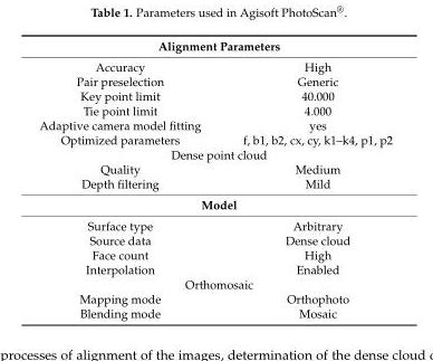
<table><tbody><tr><td colspan="2">Alignment Parameters</td></tr><tr><td>Accuracy</td><td>High</td></tr><tr><td>Pair preselection</td><td>Generic</td></tr><tr><td>Key point limit</td><td>40.000</td></tr><tr><td>Tie point limit</td><td>4.000</td></tr><tr><td>Adaptive camera model fitting</td><td>yes</td></tr><tr><td>Optimized parameters</td><td>f, b1, b2, cx, cy, k1–k4, p1, p2</td></tr><tr><td colspan="2">Dense point cloud</td></tr><tr><td>Quality</td><td>Medium</td></tr><tr><td>Depth filtering</td><td>Mild</td></tr><tr><td colspan="2">Model</td></tr><tr><td>Surface type</td><td>Arbitrary</td></tr><tr><td>Source data</td><td>Dense cloud</td></tr><tr><td>Face count</td><td>High</td></tr><tr><td>Interpolation</td><td>Enabled</td></tr><tr><td colspan="2">Orthomosaic</td></tr><tr><td>Mapping mode</td><td>Orthophoto</td></tr><tr><td>Blending mode</td><td>Mosaic</td></tr></tbody></table>